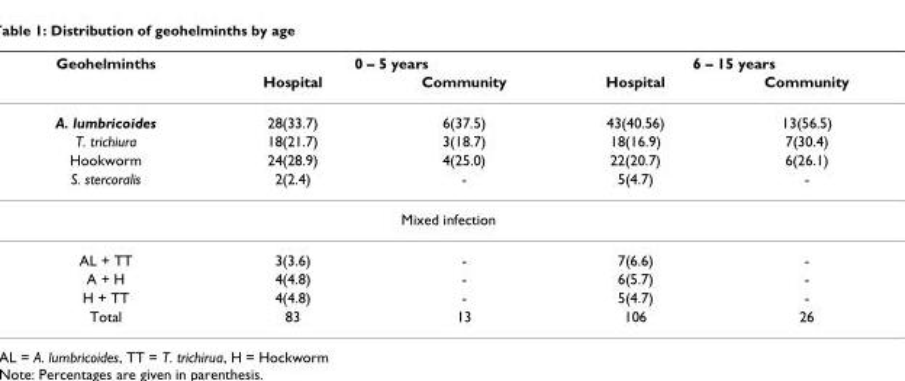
<table><thead><tr><td rowspan="2">Geohelminths</td><td colspan="2">0 – 5 years</td><td colspan="2">6 – 15 years</td></tr><tr><td>Hospital</td><td>Community</td><td>Hospital</td><td>Community</td></tr></thead><tbody><tr><td>A. lumbricoides</td><td>28(33.7)</td><td>6(37.5)</td><td>43(40.56)</td><td>13(56.5)</td></tr><tr><td>T. trichiura</td><td>18(21.7)</td><td>3(18.7)</td><td>18(16.9)</td><td>7(30.4)</td></tr><tr><td>Hookworm</td><td>24(28.9)</td><td>4(25.0)</td><td>22(20.7)</td><td>6(26.1)</td></tr><tr><td>S. stercoralis</td><td>2(2.4)</td><td>-</td><td>5(4.7)</td><td>-</td></tr><tr><td colspan="5">Mixed infection</td></tr><tr><td>AL + TT</td><td>3(3.6)</td><td>-</td><td>7(6.6)</td><td>-</td></tr><tr><td>A + H</td><td>4(4.8)</td><td>-</td><td>6(5.7)</td><td>-</td></tr><tr><td>H + TT</td><td>4(4.8)</td><td>-</td><td>5(4.7)</td><td>-</td></tr><tr><td>Total</td><td>83</td><td>13</td><td>106</td><td>26</td></tr></tbody></table>